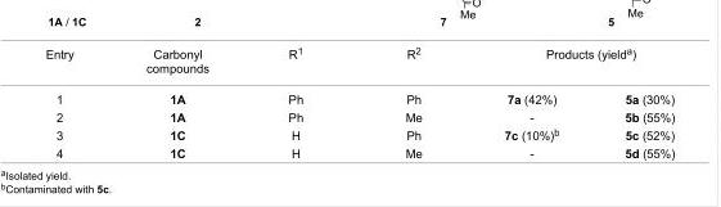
<table><tbody><tr><td>Entry</td><td>Carbonyl compounds</td><td>R<sup>1</sup></td><td>R<sup>2</sup></td><td colspan="2">Products (yield<sup>a</sup>)</td></tr><tr><td>1</td><td>1A</td><td>Ph</td><td>Ph</td><td>7a (42%)</td><td>5a (30%)</td></tr><tr><td>2</td><td>1A</td><td>Ph</td><td>Me</td><td>-</td><td>5b (55%)</td></tr><tr><td>3</td><td>1C</td><td>H</td><td>Ph</td><td>7c (10%)<sup>b</sup></td><td>5c (52%)</td></tr><tr><td>4</td><td>1C</td><td>H</td><td>Me</td><td>-</td><td>5d (55%)</td></tr></tbody></table>